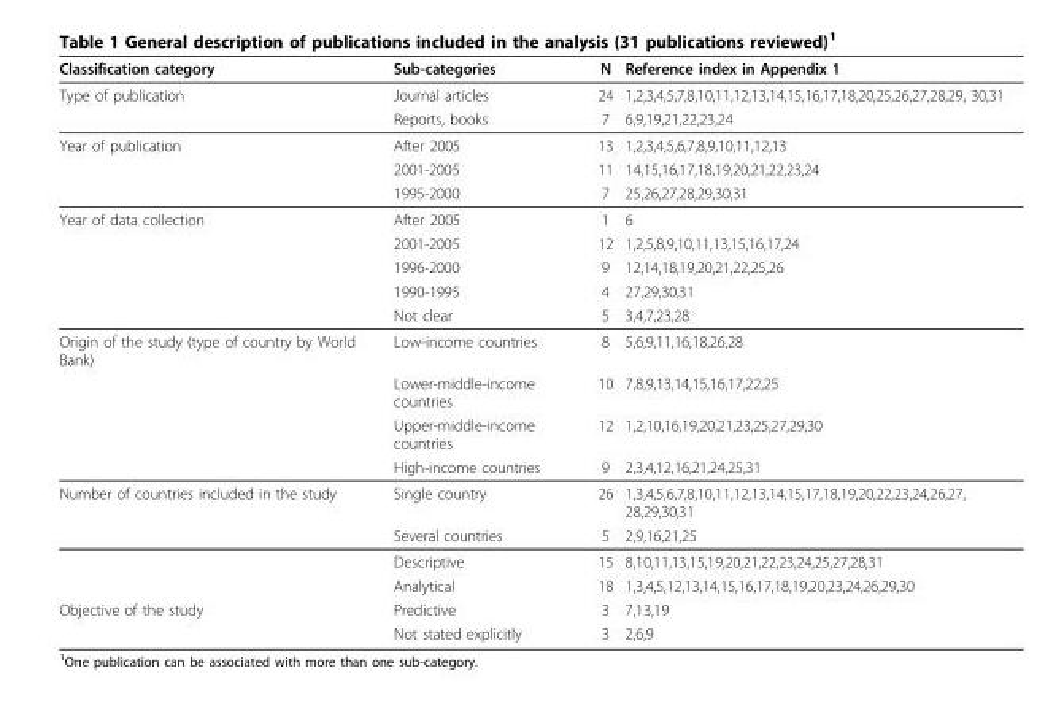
<table><thead><tr><td>Classification category</td><td>Sub-categories</td><td>N</td><td>Reference index in Appendix 1</td></tr></thead><tbody><tr><td rowspan="2">Type of publication</td><td>Journal articles</td><td>24</td><td>1,2,3,4,5,7,8,10,11,12,13,14,15,16,17,18,20,25,26,27,28,29, 30,31</td></tr><tr><td>Reports, books</td><td>7</td><td>6,9,19,21,22,23,24</td></tr><tr><td rowspan="3">Year of publication</td><td>After 2005</td><td>13</td><td>1,2,3,4,5,6,7,8,9,10,11,12,13</td></tr><tr><td>2001-2005</td><td>11</td><td>14,15,16,17,18,19,20,21,22,23,24</td></tr><tr><td>1995-2000</td><td>7</td><td>25,26,27,28,29,30,31</td></tr><tr><td rowspan="5">Year of data collection</td><td>After 2005</td><td>1</td><td>6</td></tr><tr><td>2001-2005</td><td>12</td><td>1,2,5,8,9,10,11,13,15,16,17,24</td></tr><tr><td>1996-2000</td><td>9</td><td>12,14,18,19,20,21,22,25,26</td></tr><tr><td>1990-1995</td><td>4</td><td>27,29,30,31</td></tr><tr><td>Not clear</td><td>5</td><td>3,4,7,23,28</td></tr><tr><td rowspan="4">Origin of the study (type of country by World Bank)</td><td>Low-income countries</td><td>8</td><td>5,6,9,11,16,18,26,28</td></tr><tr><td>Lower-middle-income countries</td><td>10</td><td>7,8,9,13,14,15,16,17,22,25</td></tr><tr><td>Upper-middle-income countries</td><td>12</td><td>1,2,10,16,19,20,21,23,25,27,29,30</td></tr><tr><td>High-income countries</td><td>9</td><td>2,3,4,12,16,21,24,25,31</td></tr><tr><td rowspan="4">Number of countries included in the study</td><td>Single country</td><td>26</td><td>1,3,4,5,6,7,8,10,11,12,13,14,15,17,18,19,20,22,23,24,26,27, 28,29,30,31</td></tr><tr><td>Several countries</td><td>5</td><td>2,9,16,21,25</td></tr><tr><td>Descriptive</td><td>15</td><td>8,10,11,13,15,19,20,21,22,23,24,25,27,28,31</td></tr><tr><td>Analytical</td><td>18</td><td>1,3,4,5,12,13,14,15,16,17,18,19,20,23,24,26,29,30</td></tr><tr><td rowspan="2">Objective of the study</td><td>Predictive</td><td>3</td><td>7,13,19</td></tr><tr><td>Not stated explicitly</td><td>3</td><td>2,6,9</td></tr></tbody></table>